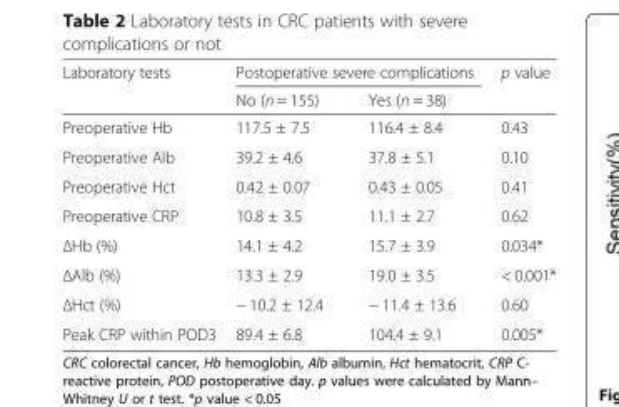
<table><thead><tr><td rowspan="2">Laboratory tests</td><td colspan="2">Postoperative severe complications</td><td rowspan="2">p value</td></tr><tr><td>No (n = 155)</td><td>Yes (n = 38)</td></tr></thead><tbody><tr><td>Preoperative Hb</td><td>117.5 ± 7.5</td><td>116.4 ± 8.4</td><td>0.43</td></tr><tr><td>Preoperative Alb</td><td>39.2 ± 4.6</td><td>37.8 ± 5.1</td><td>0.10</td></tr><tr><td>Preoperative Hct</td><td>0.42 ± 0.07</td><td>0.43 ± 0.05</td><td>0.41</td></tr><tr><td>Preoperative CRP</td><td>10.8 ± 3.5</td><td>11.1 ± 2.7</td><td>0.62</td></tr><tr><td>ΔHb (%)</td><td>14.1 ± 4.2</td><td>15.7 ± 3.9</td><td>0.034*</td></tr><tr><td>ΔAlb (%)</td><td>13.3 ± 2.9</td><td>19.0 ± 3.5</td><td>&lt; 0.001*</td></tr><tr><td>ΔHct (%)</td><td>− 10.2 ± 12.4</td><td>− 11.4 ± 13.6</td><td>0.60</td></tr><tr><td>Peak CRP within POD3</td><td>89.4 ± 6.8</td><td>104.4 ± 9.1</td><td>0.005*</td></tr></tbody></table>